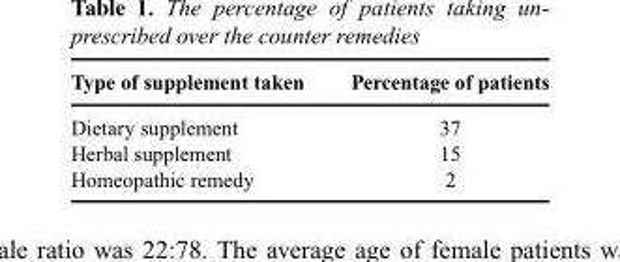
<table><thead><tr><td>Type of supplement taken</td><td>Percentage of patients</td></tr></thead><tbody><tr><td>Dietary supplement</td><td>37</td></tr><tr><td>Herbal supplement</td><td>15</td></tr><tr><td>Homeopathic remedy</td><td>2</td></tr></tbody></table>